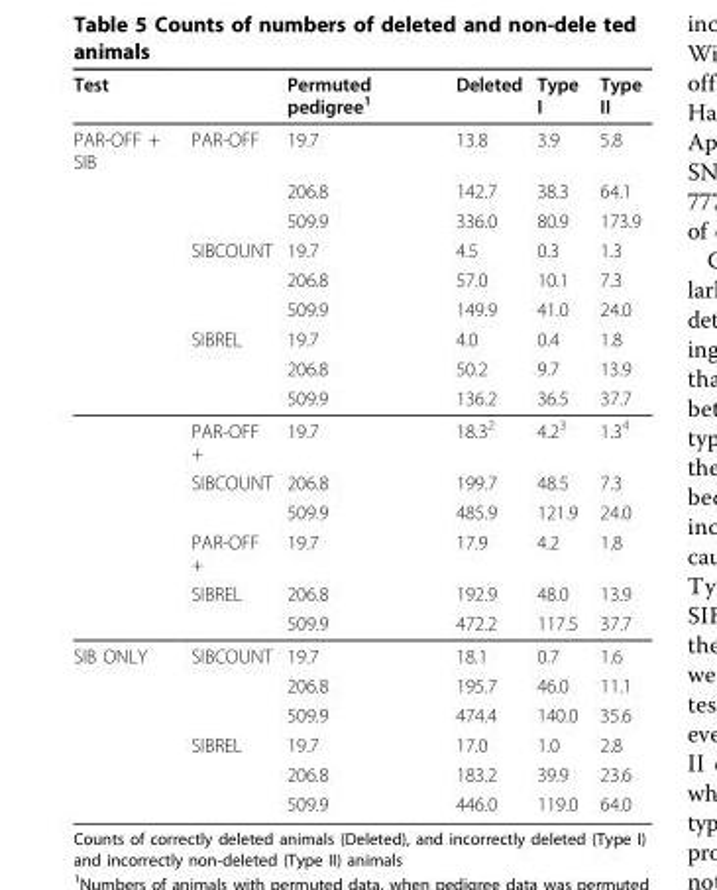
<table><thead><tr><td>Test</td><td></td><td>Permuted pedigree<sup>1</sup></td><td>Deleted</td><td>Type I</td><td>Type II</td></tr></thead><tbody><tr><td rowspan="15">PAR-OFF + SIB</td><td>PAR-OFF</td><td>19.7</td><td>13.8</td><td>3.9</td><td>5.8</td></tr><tr><td></td><td>206.8</td><td>142.7</td><td>38.3</td><td>64.1</td></tr><tr><td></td><td>509.9</td><td>336.0</td><td>80.9</td><td>173.9</td></tr><tr><td>SIBCOUNT</td><td>19.7</td><td>4.5</td><td>0.3</td><td>1.3</td></tr><tr><td></td><td>206.8</td><td>57.0</td><td>10.1</td><td>7.3</td></tr><tr><td></td><td>509.9</td><td>149.9</td><td>41.0</td><td>24.0</td></tr><tr><td>SIBREL</td><td>19.7</td><td>4.0</td><td>0.4</td><td>1.8</td></tr><tr><td></td><td>206.8</td><td>50.2</td><td>9.7</td><td>13.9</td></tr><tr><td></td><td>509.9</td><td>136.2</td><td>36.5</td><td>37.7</td></tr><tr><td>PAR-OFF +</td><td>19.7</td><td>18.3<sup>2</sup></td><td>4.2<sup>3</sup></td><td>1.3<sup>4</sup></td></tr><tr><td>SIBCOUNT</td><td>206.8</td><td>199.7</td><td>48.5</td><td>7.3</td></tr><tr><td></td><td>509.9</td><td>485.9</td><td>121.9</td><td>24.0</td></tr><tr><td>PAR-OFF +</td><td>19.7</td><td>17.9</td><td>4.2</td><td>1.8</td></tr><tr><td>SIBREL</td><td>206.8</td><td>192.9</td><td>48.0</td><td>13.9</td></tr><tr><td></td><td>509.9</td><td>472.2</td><td>117.5</td><td>37.7</td></tr><tr><td rowspan="6">SIB ONLY</td><td>SIBCOUNT</td><td>19.7</td><td>18.1</td><td>0.7</td><td>1.6</td></tr><tr><td></td><td>206.8</td><td>195.7</td><td>46.0</td><td>11.1</td></tr><tr><td></td><td>509.9</td><td>474.4</td><td>140.0</td><td>35.6</td></tr><tr><td>SIBREL</td><td>19.7</td><td>17.0</td><td>1.0</td><td>2.8</td></tr><tr><td></td><td>206.8</td><td>183.2</td><td>39.9</td><td>23.6</td></tr><tr><td></td><td>509.9</td><td>446.0</td><td>119.0</td><td>64.0</td></tr></tbody></table>